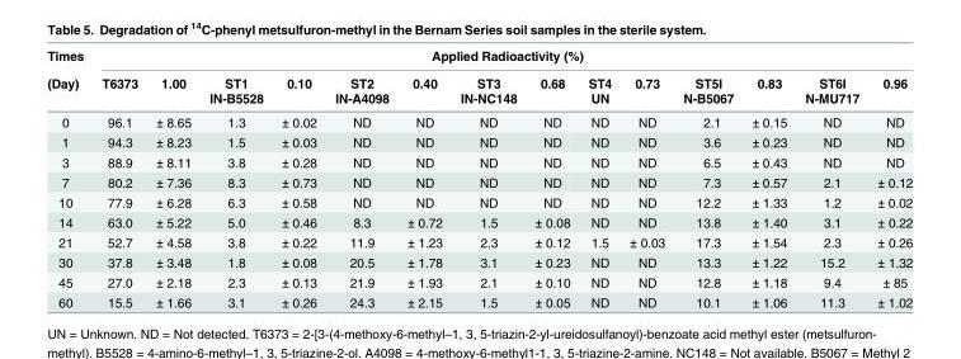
<table><thead><tr><td rowspan="3">Times (Day)</td><td colspan="14">Applied Radioactivity (%)</td></tr><tr><td rowspan="2">T6373</td><td rowspan="2">1.00</td><td rowspan="2">ST1 IN-B5528</td><td rowspan="2">0.10</td><td rowspan="2">ST2 IN-A4098</td><td rowspan="2">0.40</td><td rowspan="2">ST3 IN-NC148</td><td rowspan="2">0.68</td><td rowspan="2">ST4 UN</td><td rowspan="2">0.73</td><td rowspan="2">ST5I N-B5067</td><td rowspan="2">0.83</td><td rowspan="2">ST6I N-MU717</td><td rowspan="2">0.96</td></tr><tr></tr></thead><tbody><tr><td>0</td><td>96.1</td><td>± 8.65</td><td>1.3</td><td>± 0.02</td><td>ND</td><td>ND</td><td>ND</td><td>ND</td><td>ND</td><td>ND</td><td>2.1</td><td>± 0.15</td><td>ND</td><td>ND</td></tr><tr><td>1</td><td>94.3</td><td>± 8.23</td><td>1.5</td><td>± 0.03</td><td>ND</td><td>ND</td><td>ND</td><td>ND</td><td>ND</td><td>ND</td><td>3.6</td><td>± 0.23</td><td>ND</td><td>ND</td></tr><tr><td>3</td><td>88.9</td><td>± 8.11</td><td>3.8</td><td>± 0.28</td><td>ND</td><td>ND</td><td>ND</td><td>ND</td><td>ND</td><td>ND</td><td>6.5</td><td>± 0.43</td><td>ND</td><td>ND</td></tr><tr><td>7</td><td>80.2</td><td>± 7.36</td><td>8.3</td><td>± 0.73</td><td>ND</td><td>ND</td><td>ND</td><td>ND</td><td>ND</td><td>ND</td><td>7.3</td><td>± 0.57</td><td>2.1</td><td>± 0.12</td></tr><tr><td>10</td><td>77.9</td><td>± 6.28</td><td>6.3</td><td>± 0.58</td><td>ND</td><td>ND</td><td>ND</td><td>ND</td><td>ND</td><td>ND</td><td>12.2</td><td>± 1.33</td><td>1.2</td><td>± 0.02</td></tr><tr><td>14</td><td>63.0</td><td>± 5.22</td><td>5.0</td><td>± 0.46</td><td>8.3</td><td>± 0.72</td><td>1.5</td><td>± 0.08</td><td>ND</td><td>ND</td><td>13.8</td><td>± 1.40</td><td>3.1</td><td>± 0.22</td></tr><tr><td>21</td><td>52.7</td><td>± 4.58</td><td>3.8</td><td>± 0.22</td><td>11.9</td><td>± 1.23</td><td>2.3</td><td>± 0.12</td><td>1.5</td><td>± 0.03</td><td>17.3</td><td>± 1.54</td><td>2.3</td><td>± 0.26</td></tr><tr><td>30</td><td>37.8</td><td>± 3.48</td><td>1.8</td><td>± 0.08</td><td>20.5</td><td>± 1.78</td><td>3.1</td><td>± 0.23</td><td>ND</td><td>ND</td><td>13.3</td><td>± 1.22</td><td>15.2</td><td>± 1.32</td></tr><tr><td>45</td><td>27.0</td><td>± 2.18</td><td>2.3</td><td>± 0.13</td><td>21.9</td><td>± 1.93</td><td>2.1</td><td>± 0.10</td><td>ND</td><td>ND</td><td>12.8</td><td>± 1.18</td><td>9.4</td><td>± 85</td></tr><tr><td>60</td><td>15.5</td><td>± 1.66</td><td>3.1</td><td>± 0.26</td><td>24.3</td><td>± 2.15</td><td>1.5</td><td>± 0.05</td><td>ND</td><td>ND</td><td>10.1</td><td>± 1.06</td><td>11.3</td><td>± 1.02</td></tr></tbody></table>